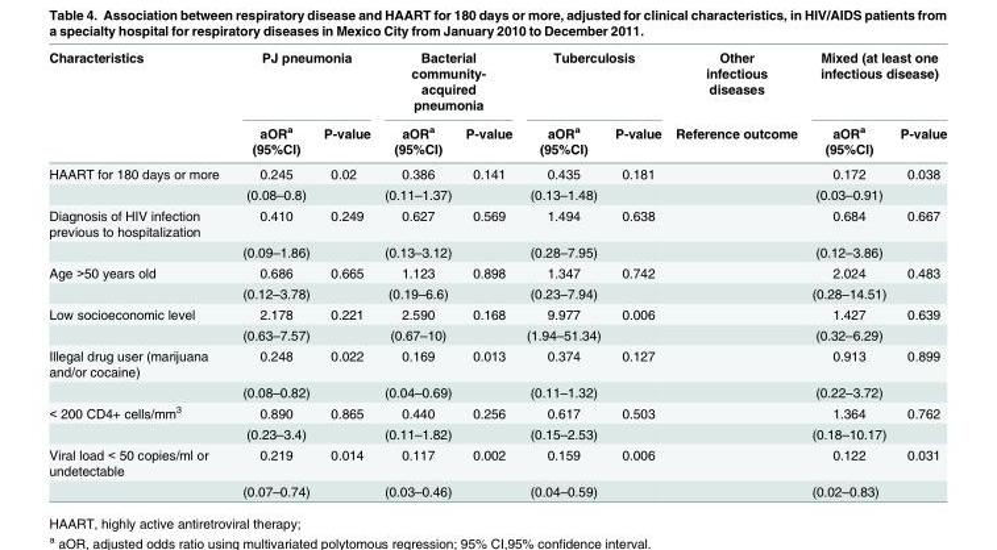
<table><thead><tr><td rowspan="3">Characteristics</td><td colspan="2">PJ pneumonia</td><td colspan="2">Bacterial community- acquired pneumonia</td><td colspan="2">Tuberculosis</td><td rowspan="3">Other infectious diseases Reference outcome</td><td colspan="2">Mixed (at least one infectious disease)</td></tr><tr><td rowspan="2">aOR<sup>a</sup> (95%CI)</td><td rowspan="2">P-value</td><td rowspan="2">aOR<sup>a</sup> (95%CI)</td><td rowspan="2">P-value</td><td rowspan="2">aOR<sup>a</sup> (95%CI)</td><td rowspan="2">P-value</td><td rowspan="2">aOR<sup>a</sup> (95%CI)</td><td rowspan="2">P-value</td></tr><tr></tr></thead><tbody><tr><td rowspan="2">HAART for 180 days or more</td><td>0.245</td><td>0.02</td><td>0.386</td><td>0.141</td><td>0.435</td><td>0.181</td><td></td><td>0.172</td><td>0.038</td></tr><tr><td>(0.08–0.8)</td><td></td><td>(0.11–1.37)</td><td></td><td>(0.13–1.48)</td><td></td><td></td><td>(0.03–0.91)</td><td></td></tr><tr><td rowspan="2">Diagnosis of HIV infection previous to hospitalization</td><td>0.410</td><td>0.249</td><td>0.627</td><td>0.569</td><td>1.494</td><td>0.638</td><td></td><td>0.684</td><td>0.667</td></tr><tr><td>(0.09–1.86)</td><td></td><td>(0.13–3.12)</td><td></td><td>(0.28–7.95)</td><td></td><td></td><td>(0.12–3.86)</td><td></td></tr><tr><td rowspan="2">Age &gt;50 years old</td><td>0.686</td><td>0.665</td><td>1.123</td><td>0.898</td><td>1.347</td><td>0.742</td><td></td><td>2.024</td><td>0.483</td></tr><tr><td>(0.12–3.78)</td><td></td><td>(0.19–6.6)</td><td></td><td>(0.23–7.94)</td><td></td><td></td><td>(0.28–14.51)</td><td></td></tr><tr><td rowspan="2">Low socioeconomic level</td><td>2.178</td><td>0.221</td><td>2.590</td><td>0.168</td><td>9.977</td><td>0.006</td><td></td><td>1.427</td><td>0.639</td></tr><tr><td>(0.63–7.57)</td><td></td><td>(0.67–10)</td><td></td><td>(1.94–51.34)</td><td></td><td></td><td>(0.32–6.29)</td><td></td></tr><tr><td rowspan="2">Illegal drug user (marijuana and/or cocaine)</td><td>0.248</td><td>0.022</td><td>0.169</td><td>0.013</td><td>0.374</td><td>0.127</td><td></td><td>0.913</td><td>0.899</td></tr><tr><td>(0.08–0.82)</td><td></td><td>(0.04–0.69)</td><td></td><td>(0.11–1.32)</td><td></td><td></td><td>(0.22–3.72)</td><td></td></tr><tr><td rowspan="2">&lt; 200 CD4+ cells/mm<sup>3</sup></td><td>0.890</td><td>0.865</td><td>0.440</td><td>0.256</td><td>0.617</td><td>0.503</td><td></td><td>1.364</td><td>0.762</td></tr><tr><td>(0.23–3.4)</td><td></td><td>(0.11–1.82)</td><td></td><td>(0.15–2.53)</td><td></td><td></td><td>(0.18–10.17)</td><td></td></tr><tr><td rowspan="2">Viral load &lt; 50 copies/ml or undetectable</td><td>0.219</td><td>0.014</td><td>0.117</td><td>0.002</td><td>0.159</td><td>0.006</td><td></td><td>0.122</td><td>0.031</td></tr><tr><td>(0.07–0.74)</td><td></td><td>(0.03–0.46)</td><td></td><td>(0.04–0.59)</td><td></td><td></td><td>(0.02–0.83)</td><td></td></tr></tbody></table>